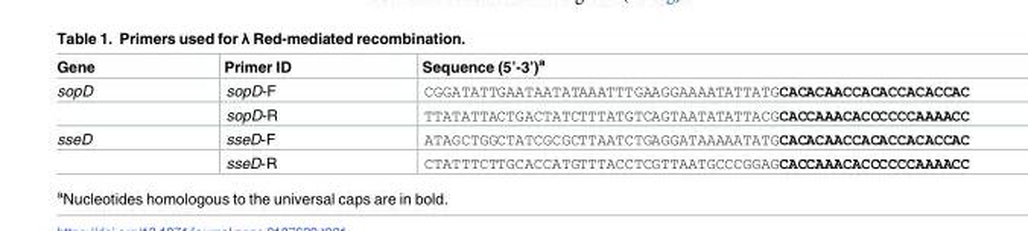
<table><thead><tr><td>Gene</td><td>Primer ID</td><td>Sequence (5’-3’)<sup>a</sup></td></tr></thead><tbody><tr><td rowspan="2">sopD</td><td>sopD-F</td><td>CGGATATTGAATAATATAAATTTGAAGGAAAATATTATGCACACAACCACACCACACCAC</td></tr><tr><td>sopD-R</td><td>TTATATTACTGACTATCTTTATGTCAGTAATATATTACGCACCAAACACCCCCCAAAACC</td></tr><tr><td rowspan="2">sseD</td><td>sseD-F</td><td>ATAGCTGGCTATCGCGCTTAATCTGAGGATAAAAATATGCACACAACCACACCACACCAC</td></tr><tr><td>sseD-R</td><td>CTATTTCTTGCACCATGTTTACCTCGTTAATGCCCGGAGCACCAAACACCCCCCAAAACC</td></tr></tbody></table>